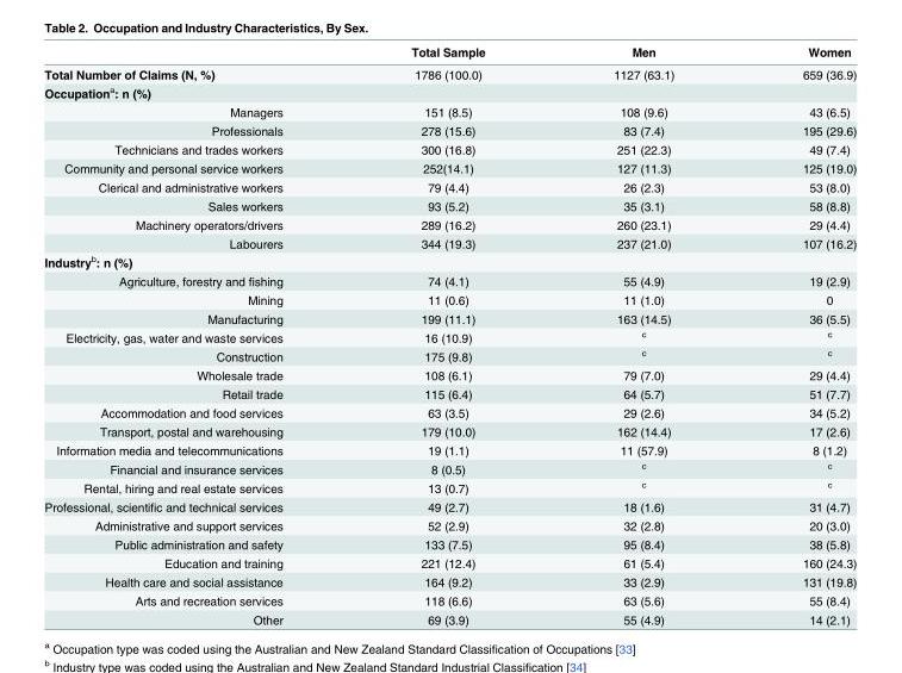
<table><thead><tr><td></td><td>Total Sample</td><td>Men</td><td>Women</td></tr></thead><tbody><tr><td>Total Number of Claims (N, %)</td><td>1786 (100.0)</td><td>1127 (63.1)</td><td>659 (36.9)</td></tr><tr><td colspan="4">Occupation<sup>a</sup>: n (%)</td></tr><tr><td>Managers</td><td>151 (8.5)</td><td>108 (9.6)</td><td>43 (6.5)</td></tr><tr><td>Professionals</td><td>278 (15.6)</td><td>83 (7.4)</td><td>195 (29.6)</td></tr><tr><td>Technicians and trades workers</td><td>300 (16.8)</td><td>251 (22.3)</td><td>49 (7.4)</td></tr><tr><td>Community and personal service workers</td><td>252(14.1)</td><td>127 (11.3)</td><td>125 (19.0)</td></tr><tr><td>Clerical and administrative workers</td><td>79 (4.4)</td><td>26 (2.3)</td><td>53 (8.0)</td></tr><tr><td>Sales workers</td><td>93 (5.2)</td><td>35 (3.1)</td><td>58 (8.8)</td></tr><tr><td>Machinery operators/drivers</td><td>289 (16.2)</td><td>260 (23.1)</td><td>29 (4.4)</td></tr><tr><td>Labourers</td><td>344 (19.3)</td><td>237 (21.0)</td><td>107 (16.2)</td></tr><tr><td colspan="4">Industry<sup>b</sup>: n (%)</td></tr><tr><td>Agriculture, forestry and fishing</td><td>74 (4.1)</td><td>55 (4.9)</td><td>19 (2.9)</td></tr><tr><td>Mining</td><td>11 (0.6)</td><td>11 (1.0)</td><td>0</td></tr><tr><td>Manufacturing</td><td>199 (11.1)</td><td>163 (14.5)</td><td>36 (5.5)</td></tr><tr><td>Electricity, gas, water and waste services</td><td>16 (10.9)</td><td><sup>c</sup></td><td><sup>c</sup></td></tr><tr><td>Construction</td><td>175 (9.8)</td><td><sup>c</sup></td><td><sup>c</sup></td></tr><tr><td>Wholesale trade</td><td>108 (6.1)</td><td>79 (7.0)</td><td>29 (4.4)</td></tr><tr><td>Retail trade</td><td>115 (6.4)</td><td>64 (5.7)</td><td>51 (7.7)</td></tr><tr><td>Accommodation and food services</td><td>63 (3.5)</td><td>29 (2.6)</td><td>34 (5.2)</td></tr><tr><td>Transport, postal and warehousing</td><td>179 (10.0)</td><td>162 (14.4)</td><td>17 (2.6)</td></tr><tr><td>Information media and telecommunications</td><td>19 (1.1)</td><td>11 (57.9)</td><td>8 (1.2)</td></tr><tr><td>Financial and insurance services</td><td>8 (0.5)</td><td><sup>c</sup></td><td><sup>c</sup></td></tr><tr><td>Rental, hiring and real estate services</td><td>13 (0.7)</td><td><sup>c</sup></td><td><sup>c</sup></td></tr><tr><td>Professional, scientific and technical services</td><td>49 (2.7)</td><td>18 (1.6)</td><td>31 (4.7)</td></tr><tr><td>Administrative and support services</td><td>52 (2.9)</td><td>32 (2.8)</td><td>20 (3.0)</td></tr><tr><td>Public administration and safety</td><td>133 (7.5)</td><td>95 (8.4)</td><td>38 (5.8)</td></tr><tr><td>Education and training</td><td>221 (12.4)</td><td>61 (5.4)</td><td>160 (24.3)</td></tr><tr><td>Health care and social assistance</td><td>164 (9.2)</td><td>33 (2.9)</td><td>131 (19.8)</td></tr><tr><td>Arts and recreation services</td><td>118 (6.6)</td><td>63 (5.6)</td><td>55 (8.4)</td></tr><tr><td>Other</td><td>69 (3.9)</td><td>55 (4.9)</td><td>14 (2.1)</td></tr></tbody></table>